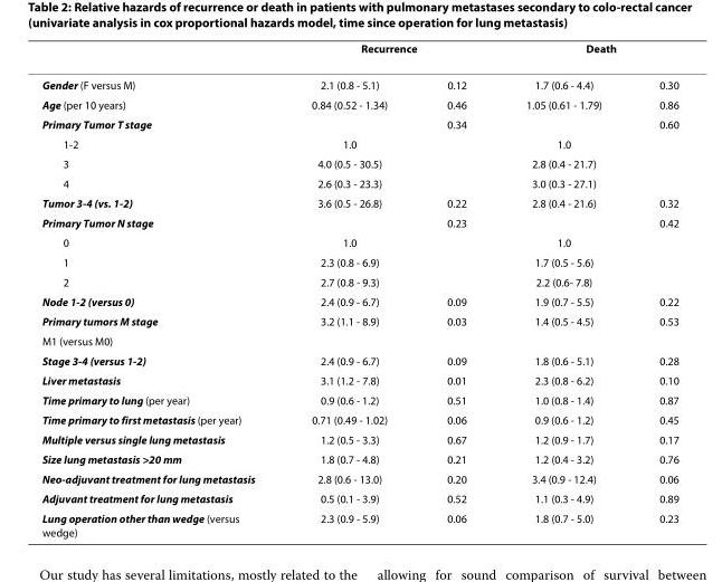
<table><thead><tr><td rowspan="2">Gender (F versus M)</td><td colspan="2">Recurrence</td><td colspan="2">Death</td></tr><tr><td>2.1 (0.8 - 5.1)</td><td>0.12</td><td>1.7 (0.6 - 4.4)</td><td>0.30</td></tr></thead><tbody><tr><td>Age (per 10 years)</td><td>0.84 (0.52 - 1.34)</td><td>0.46</td><td>1.05 (0.61 - 1.79)</td><td>0.86</td></tr><tr><td>Primary Tumor T stage</td><td></td><td>0.34</td><td></td><td>0.60</td></tr><tr><td>1-2</td><td>1.0</td><td></td><td>1.0</td><td></td></tr><tr><td>3</td><td>4.0 (0.5 - 30.5)</td><td></td><td>2.8 (0.4 - 21.7)</td><td></td></tr><tr><td>4</td><td>2.6 (0.3 - 23.3)</td><td></td><td>3.0 (0.3 - 27.1)</td><td></td></tr><tr><td>Tumor 3-4 (vs. 1-2)</td><td>3.6 (0.5 - 26.8)</td><td>0.22</td><td>2.8 (0.4 - 21.6)</td><td>0.32</td></tr><tr><td>Primary Tumor N stage</td><td></td><td>0.23</td><td></td><td>0.42</td></tr><tr><td>0</td><td>1.0</td><td></td><td>1.0</td><td></td></tr><tr><td>1</td><td>2.3 (0.8 - 6.9)</td><td></td><td>1.7 (0.5 - 5.6)</td><td></td></tr><tr><td>2</td><td>2.7 (0.8 - 9.3)</td><td></td><td>2.2 (0.6- 7.8)</td><td></td></tr><tr><td>Node 1-2 (versus 0)</td><td>2.4 (0.9 - 6.7)</td><td>0.09</td><td>1.9 (0.7 - 5.5)</td><td>0.22</td></tr><tr><td>Primary tumors M stage</td><td>3.2 (1.1 - 8.9)</td><td>0.03</td><td>1.4 (0.5 - 4.5)</td><td>0.53</td></tr><tr><td colspan="5">M1 (versus M0)</td></tr><tr><td>Stage 3-4 (versus 1-2)</td><td>2.4 (0.9 - 6.7)</td><td>0.09</td><td>1.8 (0.6 - 5.1)</td><td>0.28</td></tr><tr><td>Liver metastasis</td><td>3.1 (1.2 - 7.8)</td><td>0.01</td><td>2.3 (0.8 - 6.2)</td><td>0.10</td></tr><tr><td>Time primary to lung (per year)</td><td>0.9 (0.6 - 1.2)</td><td>0.51</td><td>1.0 (0.8 - 1.4)</td><td>0.87</td></tr><tr><td>Time primary to first metastasis (per year)</td><td>0.71 (0.49 - 1.02)</td><td>0.06</td><td>0.9 (0.6 - 1.2)</td><td>0.45</td></tr><tr><td>Multiple versus single lung metastasis</td><td>1.2 (0.5 - 3.3)</td><td>0.67</td><td>1.2 (0.9 - 1.7)</td><td>0.17</td></tr><tr><td>Size lung metastasis &gt;20 mm</td><td>1.8 (0.7 - 4.8)</td><td>0.21</td><td>1.2 (0.4 - 3.2)</td><td>0.76</td></tr><tr><td>Neo-adjuvant treatment for lung metastasis</td><td>2.8 (0.6 - 13.0)</td><td>0.20</td><td>3.4 (0.9 - 12.4)</td><td>0.06</td></tr><tr><td>Adjuvant treatment for lung metastasis</td><td>0.5 (0.1 - 3.9)</td><td>0.52</td><td>1.1 (0.3 - 4.9)</td><td>0.89</td></tr><tr><td>Lung operation other than wedge (versus wedge)</td><td>2.3 (0.9 - 5.9)</td><td>0.06</td><td>1.8 (0.7 - 5.0)</td><td>0.23</td></tr></tbody></table>